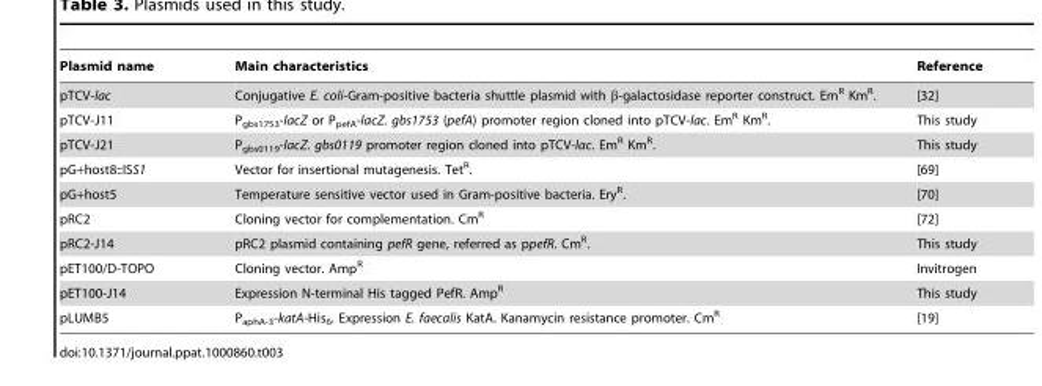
<table><thead><tr><td>Plasmid name</td><td>Main characteristics</td><td>Reference</td></tr></thead><tbody><tr><td>pTCV-lac</td><td>Conjugative E. coli-Gram-positive bacteria shuttle plasmid with β-galactosidase reporter construct. Em<sup>R</sup> Km<sup>R</sup>.</td><td>[32]</td></tr><tr><td>pTCV-J11</td><td>P<sub>gbs1753</sub>-lacZ or P<sub>pefA</sub>-lacZ. gbs1753 (pefA) promoter region cloned into pTCV-lac. Em<sup>R</sup> Km<sup>R</sup>.</td><td>This study</td></tr><tr><td>pTCV-J21</td><td>P<sub>gbs0119</sub>-lacZ. gbs0119 promoter region cloned into pTCV-lac. Em<sup>R</sup> Km<sup>R</sup>.</td><td>This study</td></tr><tr><td>pG+host8::ISS1</td><td>Vector for insertional mutagenesis. Tet<sup>R</sup>.</td><td>[69]</td></tr><tr><td>pG+host5</td><td>Temperature sensitive vector used in Gram-positive bacteria. Ery<sup>R</sup>.</td><td>[70]</td></tr><tr><td>pRC2</td><td>Cloning vector for complementation. Cm<sup>R</sup></td><td>[72]</td></tr><tr><td>pRC2-J14</td><td>pRC2 plasmid containing pefR gene, referred as ppefR. Cm<sup>R</sup>.</td><td>This study</td></tr><tr><td>pET100/D-TOPO</td><td>Cloning vector. Amp<sup>R</sup></td><td>Invitrogen</td></tr><tr><td>pET100-J14</td><td>Expression N-terminal His tagged PefR. Amp<sup>R</sup></td><td>This study</td></tr><tr><td>pLUMB5</td><td>P<sub>aphA-3</sub>-katA-His<sub>6</sub>. Expression E. faecalis KatA. Kanamycin resistance promoter. Cm<sup>R</sup></td><td>[19]</td></tr></tbody></table>